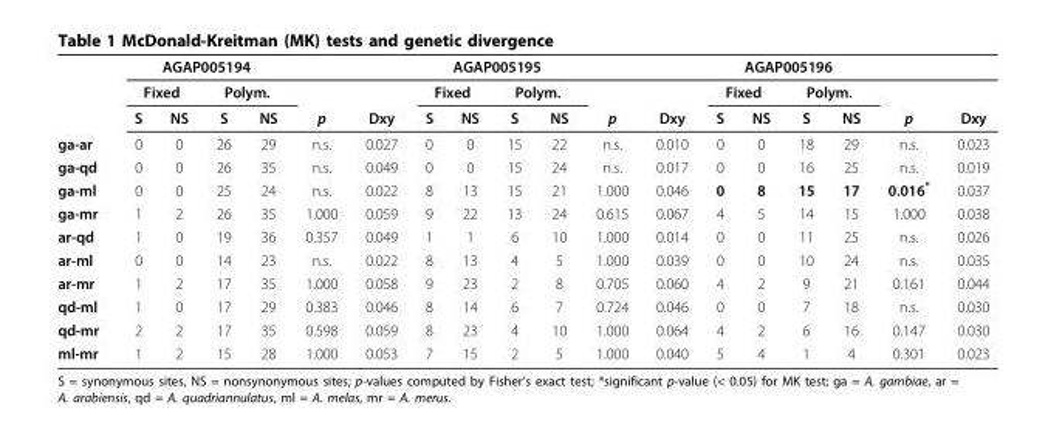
<table><thead><tr><td rowspan="3"></td><td colspan="4">AGAP005194</td><td rowspan="3">p</td><td rowspan="3">Dxy</td><td colspan="4">AGAP005195</td><td rowspan="3">p</td><td rowspan="3">Dxy</td><td colspan="4">AGAP005196</td><td rowspan="3">p</td><td rowspan="3">Dxy</td></tr><tr><td colspan="2">Fixed</td><td colspan="2">Polym.</td><td colspan="2">Fixed</td><td colspan="2">Polym.</td><td colspan="2">Fixed</td><td colspan="2">Polym.</td></tr><tr><td>S</td><td>NS</td><td>S</td><td>NS</td><td>S</td><td>NS</td><td>S</td><td>NS</td><td>S</td><td>NS</td><td>S</td><td>NS</td></tr></thead><tbody><tr><td>ga-ar</td><td>0</td><td>0</td><td>26</td><td>29</td><td>n.s.</td><td>0.027</td><td>0</td><td>0</td><td>15</td><td>22</td><td>n.s.</td><td>0.010</td><td>0</td><td>0</td><td>18</td><td>29</td><td>n.s.</td><td>0.023</td></tr><tr><td>ga-qd</td><td>0</td><td>0</td><td>26</td><td>35</td><td>n.s.</td><td>0.049</td><td>0</td><td>0</td><td>15</td><td>24</td><td>n.s.</td><td>0.017</td><td>0</td><td>0</td><td>16</td><td>25</td><td>n.s.</td><td>0.019</td></tr><tr><td>ga-ml</td><td>0</td><td>0</td><td>25</td><td>24</td><td>n.s.</td><td>0.022</td><td>8</td><td>13</td><td>15</td><td>21</td><td>1.000</td><td>0.046</td><td>0</td><td>8</td><td>15</td><td>17</td><td>0.016*</td><td>0.037</td></tr><tr><td>ga-mr</td><td>1</td><td>2</td><td>26</td><td>35</td><td>1.000</td><td>0.059</td><td>9</td><td>22</td><td>13</td><td>24</td><td>0.615</td><td>0.067</td><td>4</td><td>5</td><td>14</td><td>15</td><td>1.000</td><td>0.038</td></tr><tr><td>ar-qd</td><td>1</td><td>0</td><td>19</td><td>36</td><td>0.357</td><td>0.049</td><td>1</td><td>1</td><td>6</td><td>10</td><td>1.000</td><td>0.014</td><td>0</td><td>0</td><td>11</td><td>25</td><td>n.s.</td><td>0.026</td></tr><tr><td>ar-ml</td><td>0</td><td>0</td><td>14</td><td>23</td><td>n.s.</td><td>0.022</td><td>8</td><td>13</td><td>4</td><td>5</td><td>1.000</td><td>0.039</td><td>0</td><td>0</td><td>10</td><td>24</td><td>n.s.</td><td>0.035</td></tr><tr><td>ar-mr</td><td>1</td><td>2</td><td>17</td><td>35</td><td>1.000</td><td>0.058</td><td>9</td><td>23</td><td>2</td><td>8</td><td>0.705</td><td>0.060</td><td>4</td><td>2</td><td>9</td><td>21</td><td>0.161</td><td>0.044</td></tr><tr><td>qd-ml</td><td>1</td><td>0</td><td>17</td><td>29</td><td>0.383</td><td>0.046</td><td>8</td><td>14</td><td>6</td><td>7</td><td>0.724</td><td>0.046</td><td>0</td><td>0</td><td>7</td><td>18</td><td>n.s.</td><td>0.030</td></tr><tr><td>qd-mr</td><td>2</td><td>2</td><td>17</td><td>35</td><td>0.598</td><td>0.059</td><td>8</td><td>23</td><td>4</td><td>10</td><td>1.000</td><td>0.064</td><td>4</td><td>2</td><td>6</td><td>16</td><td>0.147</td><td>0.030</td></tr><tr><td>ml-mr</td><td>1</td><td>2</td><td>15</td><td>28</td><td>1.000</td><td>0.053</td><td>7</td><td>15</td><td>2</td><td>5</td><td>1.000</td><td>0.040</td><td>5</td><td>4</td><td>1</td><td>4</td><td>0.301</td><td>0.023</td></tr></tbody></table>